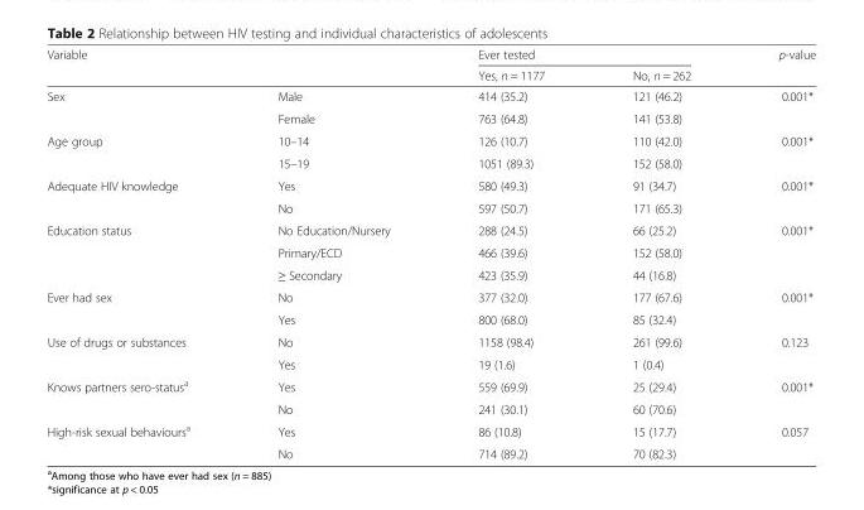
<table><thead><tr><td rowspan="2" colspan="2">Variable</td><td colspan="2">Ever tested</td><td rowspan="3">p-value 0.001*</td></tr><tr><td rowspan="2">Yes, n = 1177 414 (35.2)</td><td rowspan="2">No, n = 262 121 (46.2)</td></tr><tr><td>Sex</td><td>Male</td></tr></thead><tbody><tr><td></td><td>Female</td><td>763 (64.8)</td><td>141 (53.8)</td><td></td></tr><tr><td rowspan="2">Age group</td><td>10–14</td><td>126 (10.7)</td><td>110 (42.0)</td><td>0.001*</td></tr><tr><td>15–19</td><td>1051 (89.3)</td><td>152 (58.0)</td><td></td></tr><tr><td rowspan="2">Adequate HIV knowledge</td><td>Yes</td><td>580 (49.3)</td><td>91 (34.7)</td><td>0.001*</td></tr><tr><td>No</td><td>597 (50.7)</td><td>171 (65.3)</td><td></td></tr><tr><td rowspan="3">Education status</td><td>No Education/Nursery</td><td>288 (24.5)</td><td>66 (25.2)</td><td>0.001*</td></tr><tr><td>Primary/ECD</td><td>466 (39.6)</td><td>152 (58.0)</td><td></td></tr><tr><td>≥ Secondary</td><td>423 (35.9)</td><td>44 (16.8)</td><td></td></tr><tr><td rowspan="2">Ever had sex</td><td>No</td><td>377 (32.0)</td><td>177 (67.6)</td><td>0.001*</td></tr><tr><td>Yes</td><td>800 (68.0)</td><td>85 (32.4)</td><td></td></tr><tr><td rowspan="2">Use of drugs or substances</td><td>No</td><td>1158 (98.4)</td><td>261 (99.6)</td><td>0.123</td></tr><tr><td>Yes</td><td>19 (1.6)</td><td>1 (0.4)</td><td></td></tr><tr><td rowspan="2">Knows partners sero-status<sup>a</sup></td><td>Yes</td><td>559 (69.9)</td><td>25 (29.4)</td><td>0.001*</td></tr><tr><td>No</td><td>241 (30.1)</td><td>60 (70.6)</td><td></td></tr><tr><td rowspan="2">High-risk sexual behaviours<sup>a</sup></td><td>Yes</td><td>86 (10.8)</td><td>15 (17.7)</td><td>0.057</td></tr><tr><td>No</td><td>714 (89.2)</td><td>70 (82.3)</td><td></td></tr></tbody></table>